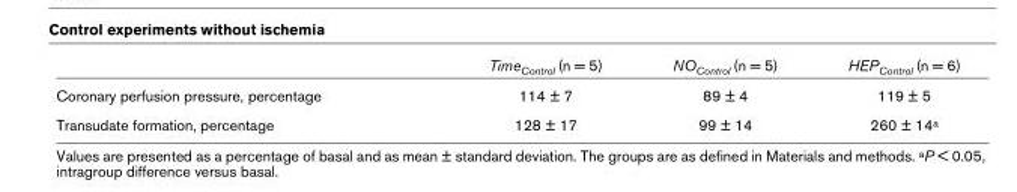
<table><thead><tr><td></td><td>Time<sub>Control</sub> (n = 5)</td><td>NO<sub>Control</sub> (n = 5)</td><td>HEP<sub>Control</sub> (n = 6)</td></tr></thead><tbody><tr><td>Coronary perfusion pressure, percentage</td><td>114 ± 7</td><td>89 ± 4</td><td>119 ± 5</td></tr><tr><td>Transudate formation, percentage</td><td>128 ± 17</td><td>99 ± 14</td><td>260 ± 14<sup>a</sup></td></tr></tbody></table>